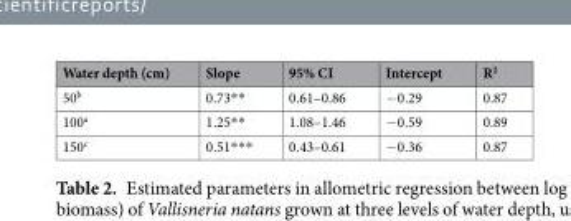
<table><thead><tr><td>Water depth (cm)</td><td>Slope</td><td>95% CI</td><td>Intercept</td><td>R<sup>2</sup></td></tr></thead><tbody><tr><td>50<sup>b</sup></td><td>0.73**</td><td>0.61–0.86</td><td>−0.29</td><td>0.87</td></tr><tr><td>100<sup>a</sup></td><td>1.25**</td><td>1.08–1.46</td><td>−0.59</td><td>0.89</td></tr><tr><td>150<sup>c</sup></td><td>0.51***</td><td>0.43–0.61</td><td>−0.36</td><td>0.87</td></tr></tbody></table>